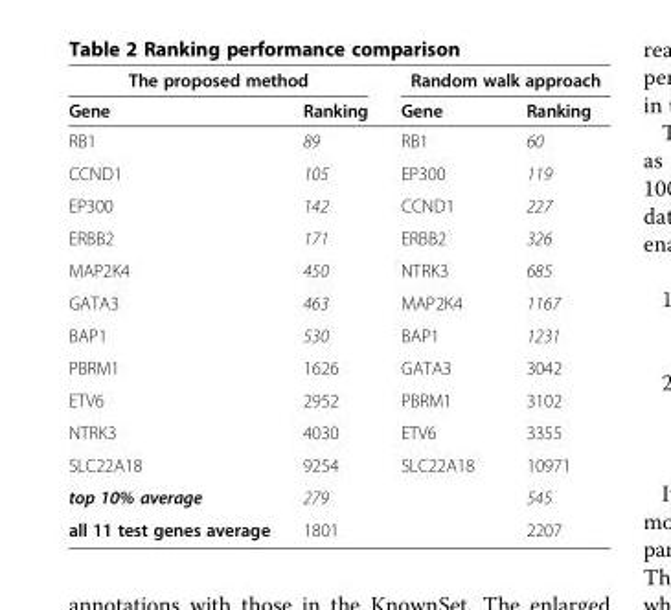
<table><thead><tr><td colspan="2">The proposed method</td><td colspan="2">Random walk approach</td></tr><tr><td>Gene</td><td>Ranking</td><td>Gene</td><td>Ranking</td></tr></thead><tbody><tr><td>RB1</td><td>89</td><td>RB1</td><td>60</td></tr><tr><td>CCND1</td><td>105</td><td>EP300</td><td>119</td></tr><tr><td>EP300</td><td>142</td><td>CCND1</td><td>227</td></tr><tr><td>ERBB2</td><td>171</td><td>ERBB2</td><td>326</td></tr><tr><td>MAP2K4</td><td>450</td><td>NTRK3</td><td>685</td></tr><tr><td>GATA3</td><td>463</td><td>MAP2K4</td><td>1167</td></tr><tr><td>BAP1</td><td>530</td><td>BAP1</td><td>1231</td></tr><tr><td>PBRM1</td><td>1626</td><td>GATA3</td><td>3042</td></tr><tr><td>ETV6</td><td>2952</td><td>PBRM1</td><td>3102</td></tr><tr><td>NTRK3</td><td>4030</td><td>ETV6</td><td>3355</td></tr><tr><td>SLC22A18</td><td>9254</td><td>SLC22A18</td><td>10971</td></tr><tr><td>top 10% average</td><td>279</td><td></td><td>545</td></tr><tr><td>all 11 test genes average</td><td>1801</td><td></td><td>2207</td></tr></tbody></table>